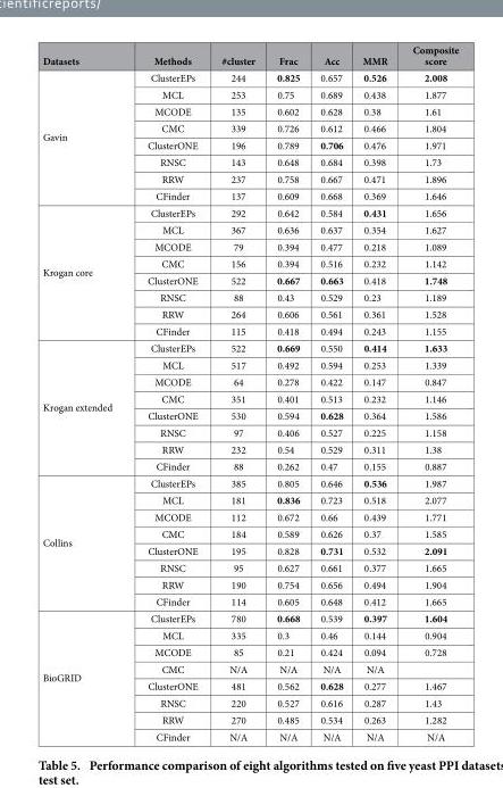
<table><thead><tr><td>Datasets</td><td>Methods</td><td>#cluster</td><td>Frac</td><td>Acc</td><td>MMR</td><td>Composite score</td></tr></thead><tbody><tr><td rowspan="8">Gavin</td><td>ClusterEPs</td><td>244</td><td>0.825</td><td>0.657</td><td>0.526</td><td>2.008</td></tr><tr><td>MCL</td><td>253</td><td>0.75</td><td>0.689</td><td>0.438</td><td>1.877</td></tr><tr><td>MCODE</td><td>135</td><td>0.602</td><td>0.628</td><td>0.38</td><td>1.61</td></tr><tr><td>CMC</td><td>339</td><td>0.726</td><td>0.612</td><td>0.466</td><td>1.804</td></tr><tr><td>ClusterONE</td><td>196</td><td>0.789</td><td>0.706</td><td>0.476</td><td>1.971</td></tr><tr><td>RNSC</td><td>143</td><td>0.648</td><td>0.684</td><td>0.398</td><td>1.73</td></tr><tr><td>RRW</td><td>237</td><td>0.758</td><td>0.667</td><td>0.471</td><td>1.896</td></tr><tr><td>CFinder</td><td>137</td><td>0.609</td><td>0.668</td><td>0.369</td><td>1.646</td></tr><tr><td rowspan="8">Krogan core</td><td>ClusterEPs</td><td>292</td><td>0.642</td><td>0.584</td><td>0.431</td><td>1.656</td></tr><tr><td>MCL</td><td>367</td><td>0.636</td><td>0.637</td><td>0.354</td><td>1.627</td></tr><tr><td>MCODE</td><td>79</td><td>0.394</td><td>0.477</td><td>0.218</td><td>1.089</td></tr><tr><td>CMC</td><td>156</td><td>0.394</td><td>0.516</td><td>0.232</td><td>1.142</td></tr><tr><td>ClusterONE</td><td>522</td><td>0.667</td><td>0.663</td><td>0.418</td><td>1.748</td></tr><tr><td>RNSC</td><td>88</td><td>0.43</td><td>0.529</td><td>0.23</td><td>1.189</td></tr><tr><td>RRW</td><td>264</td><td>0.606</td><td>0.561</td><td>0.361</td><td>1.528</td></tr><tr><td>CFinder</td><td>115</td><td>0.418</td><td>0.494</td><td>0.243</td><td>1.155</td></tr><tr><td rowspan="8">Krogan extended</td><td>ClusterEPs</td><td>522</td><td>0.669</td><td>0.550</td><td>0.414</td><td>1.633</td></tr><tr><td>MCL</td><td>517</td><td>0.492</td><td>0.594</td><td>0.253</td><td>1.339</td></tr><tr><td>MCODE</td><td>64</td><td>0.278</td><td>0.422</td><td>0.147</td><td>0.847</td></tr><tr><td>CMC</td><td>351</td><td>0.401</td><td>0.513</td><td>0.232</td><td>1.146</td></tr><tr><td>ClusterONE</td><td>530</td><td>0.594</td><td>0.628</td><td>0.364</td><td>1.586</td></tr><tr><td>RNSC</td><td>97</td><td>0.406</td><td>0.527</td><td>0.225</td><td>1.158</td></tr><tr><td>RRW</td><td>232</td><td>0.54</td><td>0.529</td><td>0.311</td><td>1.38</td></tr><tr><td>CFinder</td><td>88</td><td>0.262</td><td>0.47</td><td>0.155</td><td>0.887</td></tr><tr><td rowspan="8">Collins</td><td>ClusterEPs</td><td>385</td><td>0.805</td><td>0.646</td><td>0.536</td><td>1.987</td></tr><tr><td>MCL</td><td>181</td><td>0.836</td><td>0.723</td><td>0.518</td><td>2.077</td></tr><tr><td>MCODE</td><td>112</td><td>0.672</td><td>0.66</td><td>0.439</td><td>1.771</td></tr><tr><td>CMC</td><td>184</td><td>0.589</td><td>0.626</td><td>0.37</td><td>1.585</td></tr><tr><td>ClusterONE</td><td>195</td><td>0.828</td><td>0.731</td><td>0.532</td><td>2.091</td></tr><tr><td>RNSC</td><td>95</td><td>0.627</td><td>0.661</td><td>0.377</td><td>1.665</td></tr><tr><td>RRW</td><td>190</td><td>0.754</td><td>0.656</td><td>0.494</td><td>1.904</td></tr><tr><td>CFinder</td><td>114</td><td>0.605</td><td>0.648</td><td>0.412</td><td>1.665</td></tr><tr><td rowspan="8">BioGRID</td><td>ClusterEPs</td><td>780</td><td>0.668</td><td>0.539</td><td>0.397</td><td>1.604</td></tr><tr><td>MCL</td><td>335</td><td>0.3</td><td>0.46</td><td>0.144</td><td>0.904</td></tr><tr><td>MCODE</td><td>85</td><td>0.21</td><td>0.424</td><td>0.094</td><td>0.728</td></tr><tr><td>CMC</td><td>N/A</td><td>N/A</td><td>N/A</td><td>N/A</td><td></td></tr><tr><td>ClusterONE</td><td>481</td><td>0.562</td><td>0.628</td><td>0.277</td><td>1.467</td></tr><tr><td>RNSC</td><td>220</td><td>0.527</td><td>0.616</td><td>0.287</td><td>1.43</td></tr><tr><td>RRW</td><td>270</td><td>0.485</td><td>0.534</td><td>0.263</td><td>1.282</td></tr><tr><td>CFinder</td><td>N/A</td><td>N/A</td><td>N/A</td><td>N/A</td><td>N/A</td></tr></tbody></table>